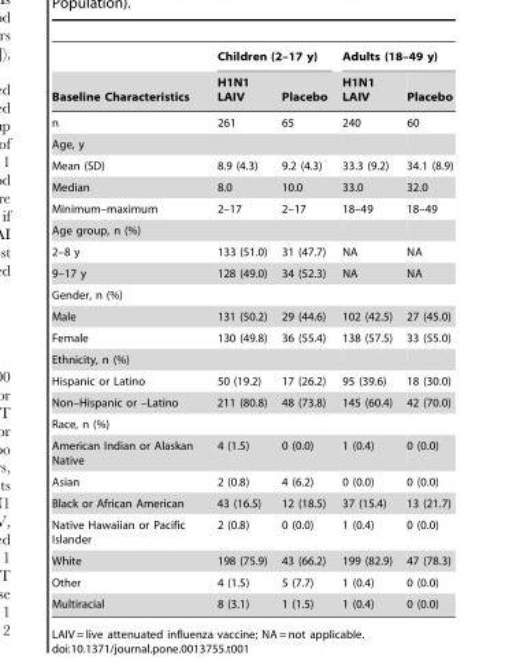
<table><thead><tr><td rowspan="2">Baseline Characteristics</td><td colspan="2">Children (2–17 y)</td><td colspan="2">Adults (18–49 y)</td></tr><tr><td>H1N1 LAIV</td><td>Placebo</td><td>H1N1 LAIV</td><td>Placebo</td></tr></thead><tbody><tr><td>n</td><td>261</td><td>65</td><td>240</td><td>60</td></tr><tr><td colspan="5">Age, y</td></tr><tr><td>Mean (SD)</td><td>8.9 (4.3)</td><td>9.2 (4.3)</td><td>33.3 (9.2)</td><td>34.1 (8.9)</td></tr><tr><td>Median</td><td>8.0</td><td>10.0</td><td>33.0</td><td>32.0</td></tr><tr><td>Minimum–maximum</td><td>2–17</td><td>2–17</td><td>18–49</td><td>18–49</td></tr><tr><td colspan="5">Age group, n (%)</td></tr><tr><td>2–8 y</td><td>133 (51.0)</td><td>31 (47.7)</td><td>NA</td><td>NA</td></tr><tr><td>9–17 y</td><td>128 (49.0)</td><td>34 (52.3)</td><td>NA</td><td>NA</td></tr><tr><td colspan="5">Gender, n (%)</td></tr><tr><td>Male</td><td>131 (50.2)</td><td>29 (44.6)</td><td>102 (42.5)</td><td>27 (45.0)</td></tr><tr><td>Female</td><td>130 (49.8)</td><td>36 (55.4)</td><td>138 (57.5)</td><td>33 (55.0)</td></tr><tr><td colspan="5">Ethnicity, n (%)</td></tr><tr><td>Hispanic or Latino</td><td>50 (19.2)</td><td>17 (26.2)</td><td>95 (39.6)</td><td>18 (30.0)</td></tr><tr><td>Non–Hispanic or –Latino</td><td>211 (80.8)</td><td>48 (73.8)</td><td>145 (60.4)</td><td>42 (70.0)</td></tr><tr><td colspan="5">Race, n (%)</td></tr><tr><td>American Indian or Alaskan Native</td><td>4 (1.5)</td><td>0 (0.0)</td><td>1 (0.4)</td><td>0 (0.0)</td></tr><tr><td>Asian</td><td>2 (0.8)</td><td>4 (6.2)</td><td>0 (0.0)</td><td>0 (0.0)</td></tr><tr><td>Black or African American</td><td>43 (16.5)</td><td>12 (18.5)</td><td>37 (15.4)</td><td>13 (21.7)</td></tr><tr><td>Native Hawaiian or Pacific Islander</td><td>2 (0.8)</td><td>0 (0.0)</td><td>1 (0.4)</td><td>0 (0.0)</td></tr><tr><td>White</td><td>198 (75.9)</td><td>43 (66.2)</td><td>199 (82.9)</td><td>47 (78.3)</td></tr><tr><td>Other</td><td>4 (1.5)</td><td>5 (7.7)</td><td>1 (0.4)</td><td>0 (0.0)</td></tr><tr><td>Multiracial</td><td>8 (3.1)</td><td>1 (1.5)</td><td>1 (0.4)</td><td>0 (0.0)</td></tr></tbody></table>